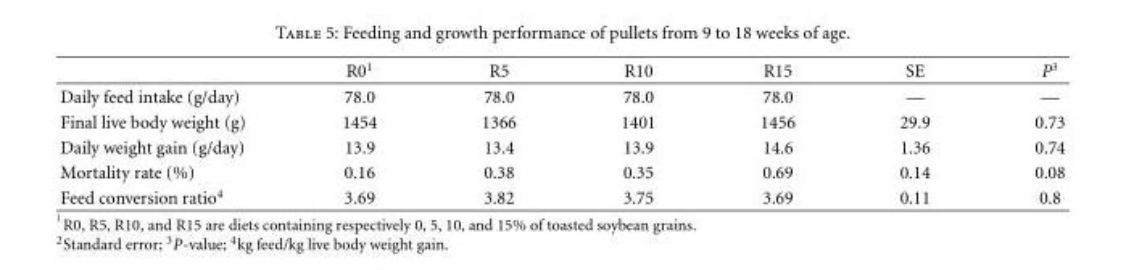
<table><thead><tr><td></td><td>R0<sup>1</sup></td><td>R5</td><td>R10</td><td>R15</td><td>SE</td><td>P<sup>3</sup></td></tr></thead><tbody><tr><td>Daily feed intake (g/day)</td><td>78.0</td><td>78.0</td><td>78.0</td><td>78.0</td><td>—</td><td>—</td></tr><tr><td>Final live body weight (g)</td><td>1454</td><td>1366</td><td>1401</td><td>1456</td><td>29.9</td><td>0.73</td></tr><tr><td>Daily weight gain (g/day)</td><td>13.9</td><td>13.4</td><td>13.9</td><td>14.6</td><td>1.36</td><td>0.74</td></tr><tr><td>Mortality rate (%)</td><td>0.16</td><td>0.38</td><td>0.35</td><td>0.69</td><td>0.14</td><td>0.08</td></tr><tr><td>Feed conversion ratio<sup>4</sup></td><td>3.69</td><td>3.82</td><td>3.75</td><td>3.69</td><td>0.11</td><td>0.8</td></tr></tbody></table>